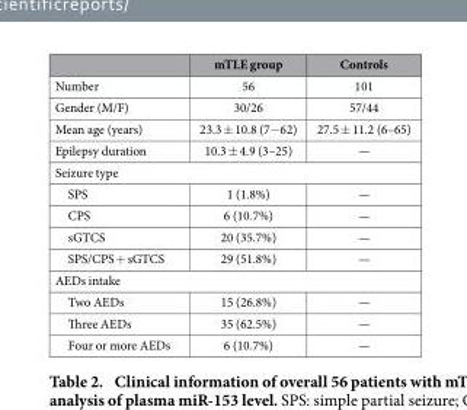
<table><thead><tr><td></td><td>mTLE group</td><td>Controls</td></tr></thead><tbody><tr><td>Number</td><td>56</td><td>101</td></tr><tr><td>Gender (M/F)</td><td>30/26</td><td>57/44</td></tr><tr><td>Mean age (years)</td><td>23.3 ± 10.8 (7− 62)</td><td>27.5 ± 11.2 (6–65)</td></tr><tr><td>Epilepsy duration</td><td>10.3 ± 4.9 (3–25)</td><td>—</td></tr><tr><td colspan="3">Seizure type</td></tr><tr><td>SPS</td><td>1 (1.8%)</td><td>—</td></tr><tr><td>CPS</td><td>6 (10.7%)</td><td>—</td></tr><tr><td>sGTCS</td><td>20 (35.7%)</td><td>—</td></tr><tr><td>SPS/CPS + sGTCS</td><td>29 (51.8%)</td><td>—</td></tr><tr><td colspan="3">AEDs intake</td></tr><tr><td>Two AEDs</td><td>15 (26.8%)</td><td>—</td></tr><tr><td>Three AEDs</td><td>35 (62.5%)</td><td>—</td></tr><tr><td>Four or more AEDs</td><td>6 (10.7%)</td><td>—</td></tr></tbody></table>